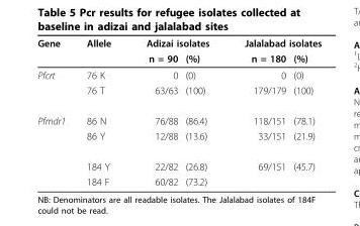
<table><thead><tr><td rowspan="2">Gene</td><td rowspan="2">Allele</td><td colspan="2">Adizai isolates</td><td colspan="2">Jalalabad isolates</td></tr><tr><td>n = 90</td><td>(%)</td><td>n = 180</td><td>(%)</td></tr></thead><tbody><tr><td rowspan="2">Pfcrt</td><td>76 K</td><td>0</td><td>(0)</td><td>0</td><td>(0)</td></tr><tr><td>76 T</td><td>63/63</td><td>(100)</td><td>179/179</td><td>(100)</td></tr><tr><td rowspan="4">Pfmdr1</td><td>86 N</td><td>76/88</td><td>(86.4)</td><td>118/151</td><td>(78.1)</td></tr><tr><td>86 Y</td><td>12/88</td><td>(13.6)</td><td>33/151</td><td>(21.9)</td></tr><tr><td>184 Y</td><td>22/82</td><td>(26.8)</td><td>69/151</td><td>(45.7)</td></tr><tr><td>184 F</td><td>60/82</td><td>(73.2)</td><td></td><td></td></tr></tbody></table>